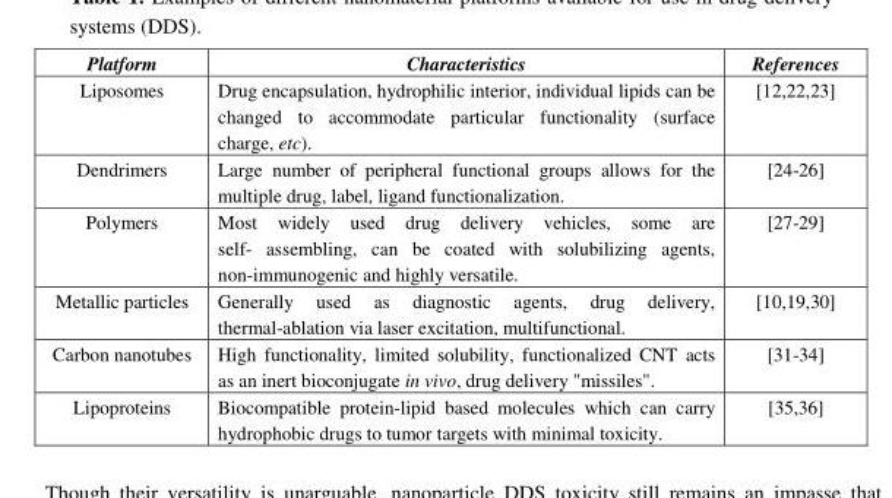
<table><thead><tr><td>Platform</td><td>Characteristics</td><td>References</td></tr></thead><tbody><tr><td>Liposomes</td><td>Drug encapsulation, hydrophilic interior, individual lipids can be changed to accommodate particular functionality (surface charge, etc).</td><td>[12,22,23]</td></tr><tr><td>Dendrimers</td><td>Large number of peripheral functional groups allows for the multiple drug, label, ligand functionalization.</td><td>[24-26]</td></tr><tr><td>Polymers</td><td>Most widely used drug delivery vehicles, some are self- assembling, can be coated with solubilizing agents, non-immunogenic and highly versatile.</td><td>[27-29]</td></tr><tr><td>Metallic particles</td><td>Generally used as diagnostic agents, drug delivery, thermal-ablation via laser excitation, multifunctional.</td><td>[10,19,30]</td></tr><tr><td>Carbon nanotubes</td><td>High functionality, limited solubility, functionalized CNT acts as an inert bioconjugate in vivo, drug delivery &quot;missiles&quot;.</td><td>[31-34]</td></tr><tr><td>Lipoproteins</td><td>Biocompatible protein-lipid based molecules which can carry hydrophobic drugs to tumor targets with minimal toxicity.</td><td>[35,36]</td></tr></tbody></table>